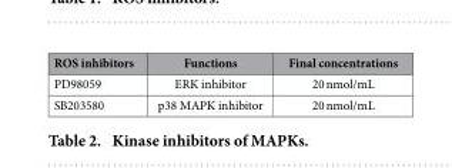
<table><thead><tr><td>ROS inhibitors</td><td>Functions</td><td>Final concentrations</td></tr></thead><tbody><tr><td>PD98059</td><td>ERK inhibitor</td><td>20 nmol/mL</td></tr><tr><td>SB203580</td><td>p38 MAPK inhibitor</td><td>20 nmol/mL</td></tr></tbody></table>